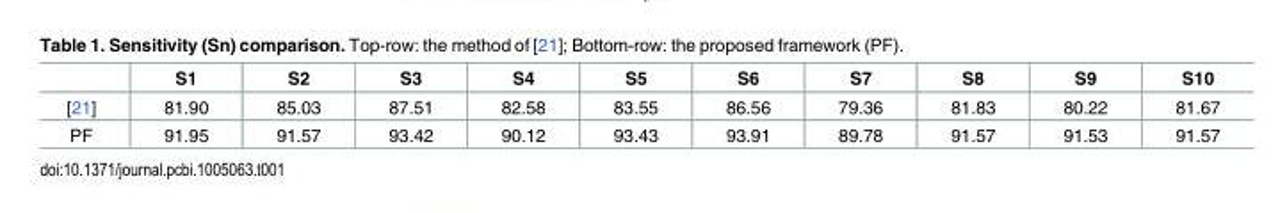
<table><thead><tr><td></td><td>S1</td><td>S2</td><td>S3</td><td>S4</td><td>S5</td><td>S6</td><td>S7</td><td>S8</td><td>S9</td><td>S10</td></tr></thead><tbody><tr><td>[21]</td><td>81.90</td><td>85.03</td><td>87.51</td><td>82.58</td><td>83.55</td><td>86.56</td><td>79.36</td><td>81.83</td><td>80.22</td><td>81.67</td></tr><tr><td>PF</td><td>91.95</td><td>91.57</td><td>93.42</td><td>90.12</td><td>93.43</td><td>93.91</td><td>89.78</td><td>91.57</td><td>91.53</td><td>91.57</td></tr></tbody></table>